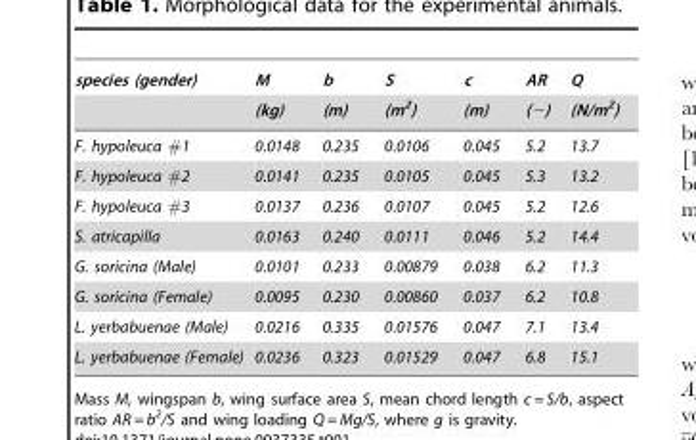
<table><thead><tr><td rowspan="2">species (gender)</td><td rowspan="2">M (kg)</td><td rowspan="2">b (m)</td><td rowspan="2">S (m<sup>2</sup>)</td><td rowspan="2">c (m)</td><td rowspan="2">AR (−)</td><td rowspan="2">Q (N/m<sup>2</sup>)</td></tr><tr></tr></thead><tbody><tr><td>F. hypoleuca #1</td><td>0.0148</td><td>0.235</td><td>0.0106</td><td>0.045</td><td>5.2</td><td>13.7</td></tr><tr><td>F. hypoleuca #2</td><td>0.0141</td><td>0.235</td><td>0.0105</td><td>0.045</td><td>5.3</td><td>13.2</td></tr><tr><td>F. hypoleuca #3</td><td>0.0137</td><td>0.236</td><td>0.0107</td><td>0.045</td><td>5.2</td><td>12.6</td></tr><tr><td>S. atricapilla</td><td>0.0163</td><td>0.240</td><td>0.0111</td><td>0.046</td><td>5.2</td><td>14.4</td></tr><tr><td>G. soricina (Male)</td><td>0.0101</td><td>0.233</td><td>0.00879</td><td>0.038</td><td>6.2</td><td>11.3</td></tr><tr><td>G. soricina (Female)</td><td>0.0095</td><td>0.230</td><td>0.00860</td><td>0.037</td><td>6.2</td><td>10.8</td></tr><tr><td>L. yerbabuenae (Male)</td><td>0.0216</td><td>0.335</td><td>0.01576</td><td>0.047</td><td>7.1</td><td>13.4</td></tr><tr><td>L. yerbabuenae (Female)</td><td>0.0236</td><td>0.323</td><td>0.01529</td><td>0.047</td><td>6.8</td><td>15.1</td></tr></tbody></table>